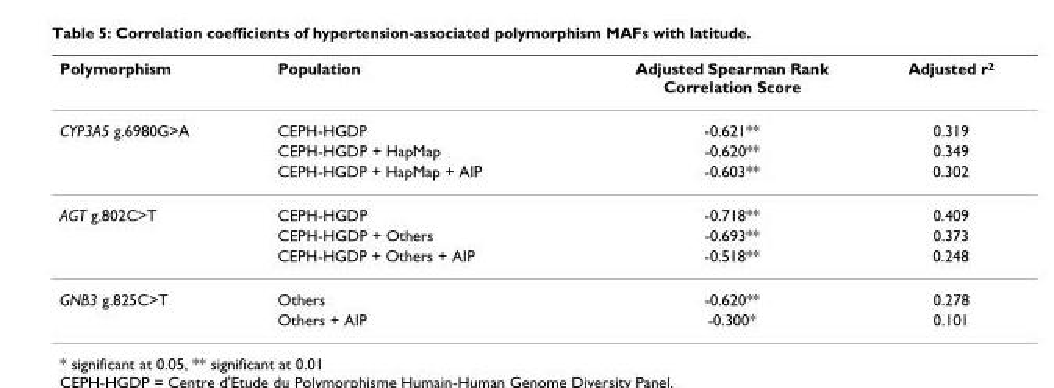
<table><thead><tr><td>Polymorphism</td><td>Population</td><td>Adjusted Spearman Rank Correlation Score</td><td>Adjusted r<sup>2</sup></td></tr></thead><tbody><tr><td rowspan="3">CYP3A5 g.6980G&gt;A</td><td>CEPH-HGDP</td><td>-0.621**</td><td>0.319</td></tr><tr><td>CEPH-HGDP + HapMap</td><td>-0.620**</td><td>0.349</td></tr><tr><td>CEPH-HGDP + HapMap + AIP</td><td>-0.603**</td><td>0.302</td></tr><tr><td rowspan="3">AGT g.802C&gt;T</td><td>CEPH-HGDP</td><td>-0.718**</td><td>0.409</td></tr><tr><td>CEPH-HGDP + Others</td><td>-0.693**</td><td>0.373</td></tr><tr><td>CEPH-HGDP + Others + AIP</td><td>-0.518**</td><td>0.248</td></tr><tr><td rowspan="2">GNB3 g.825C&gt;T</td><td>Others</td><td>-0.620**</td><td>0.278</td></tr><tr><td>Others + AIP</td><td>-0.300*</td><td>0.101</td></tr></tbody></table>